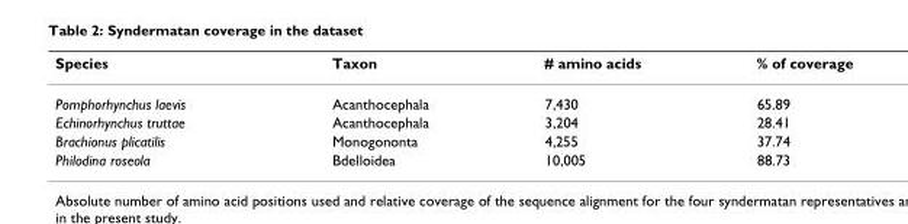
<table><thead><tr><td>Species</td><td>Taxon</td><td># amino acids</td><td>% of coverage</td></tr></thead><tbody><tr><td>Pomphorhynchus laevis</td><td>Acanthocephala</td><td>7,430</td><td>65.89</td></tr><tr><td>Echinorhynchus truttae</td><td>Acanthocephala</td><td>3,204</td><td>28.41</td></tr><tr><td>Brachionus plicatilis</td><td>Monogononta</td><td>4,255</td><td>37.74</td></tr><tr><td>Philodina roseola</td><td>Bdelloidea</td><td>10,005</td><td>88.73</td></tr></tbody></table>